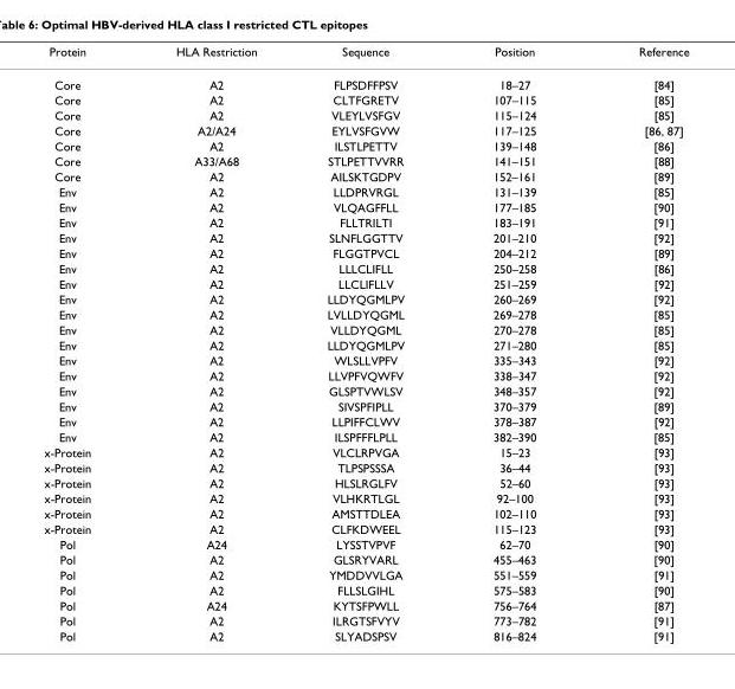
<table><thead><tr><td>Protein</td><td>HLA Restriction</td><td>Sequence</td><td>Position</td><td>Reference</td></tr></thead><tbody><tr><td>Core</td><td>A2</td><td>FLPSDFFPSV</td><td>18–27</td><td>[84]</td></tr><tr><td>Core</td><td>A2</td><td>CLTFGRETV</td><td>107–115</td><td>[85]</td></tr><tr><td>Core</td><td>A2</td><td>VLEYLVSFGV</td><td>115–124</td><td>[85]</td></tr><tr><td>Core</td><td>A2/A24</td><td>EYLVSFGVW</td><td>117–125</td><td>[86, 87]</td></tr><tr><td>Core</td><td>A2</td><td>ILSTLPETTV</td><td>139–148</td><td>[86]</td></tr><tr><td>Core</td><td>A33/A68</td><td>STLPETTVVRR</td><td>141–151</td><td>[88]</td></tr><tr><td>Core</td><td>A2</td><td>AILSKTGDPV</td><td>152–161</td><td>[89]</td></tr><tr><td>Env</td><td>A2</td><td>LLDPRVRGL</td><td>131–139</td><td>[85]</td></tr><tr><td>Env</td><td>A2</td><td>VLQAGFFLL</td><td>177–185</td><td>[90]</td></tr><tr><td>Env</td><td>A2</td><td>FLLTRILTI</td><td>183–191</td><td>[91]</td></tr><tr><td>Env</td><td>A2</td><td>SLNFLGGTTV</td><td>201–210</td><td>[92]</td></tr><tr><td>Env</td><td>A2</td><td>FLGGTPVCL</td><td>204–212</td><td>[89]</td></tr><tr><td>Env</td><td>A2</td><td>LLLCLIFLL</td><td>250–258</td><td>[86]</td></tr><tr><td>Env</td><td>A2</td><td>LLCLIFLLV</td><td>251–259</td><td>[92]</td></tr><tr><td>Env</td><td>A2</td><td>LLDYQGMLPV</td><td>260–269</td><td>[92]</td></tr><tr><td>Env</td><td>A2</td><td>LVLLDYQGML</td><td>269–278</td><td>[85]</td></tr><tr><td>Env</td><td>A2</td><td>VLLDYQGML</td><td>270–278</td><td>[85]</td></tr><tr><td>Env</td><td>A2</td><td>LLDYQGMLPV</td><td>271–280</td><td>[85]</td></tr><tr><td>Env</td><td>A2</td><td>WLSLLVPFV</td><td>335–343</td><td>[92]</td></tr><tr><td>Env</td><td>A2</td><td>LLVPFVQWFV</td><td>338–347</td><td>[92]</td></tr><tr><td>Env</td><td>A2</td><td>GLSPTVWLSV</td><td>348–357</td><td>[92]</td></tr><tr><td>Env</td><td>A2</td><td>SIVSPFIPLL</td><td>370–379</td><td>[89]</td></tr><tr><td>Env</td><td>A2</td><td>LLPIFFCLWV</td><td>378–387</td><td>[92]</td></tr><tr><td>Env</td><td>A2</td><td>ILSPFFFLPLL</td><td>382–390</td><td>[85]</td></tr><tr><td>x-Protein</td><td>A2</td><td>VLCLRPVGA</td><td>15–23</td><td>[93]</td></tr><tr><td>x-Protein</td><td>A2</td><td>TLPSPSSSA</td><td>36–44</td><td>[93]</td></tr><tr><td>x-Protein</td><td>A2</td><td>HLSLRGLFV</td><td>52–60</td><td>[93]</td></tr><tr><td>x-Protein</td><td>A2</td><td>VLHKRTLGL</td><td>92–100</td><td>[93]</td></tr><tr><td>x-Protein</td><td>A2</td><td>AMSTTDLEA</td><td>102–110</td><td>[93]</td></tr><tr><td>x-Protein</td><td>A2</td><td>CLFKDWEEL</td><td>115–123</td><td>[93]</td></tr><tr><td>Pol</td><td>A24</td><td>LYSSTVPVF</td><td>62–70</td><td>[90]</td></tr><tr><td>Pol</td><td>A2</td><td>GLSRYVARL</td><td>455–463</td><td>[90]</td></tr><tr><td>Pol</td><td>A2</td><td>YMDDVVLGA</td><td>551–559</td><td>[91]</td></tr><tr><td>Pol</td><td>A2</td><td>FLLSLGIHL</td><td>575–583</td><td>[90]</td></tr><tr><td>Pol</td><td>A24</td><td>KYTSFPWLL</td><td>756–764</td><td>[87]</td></tr><tr><td>Pol</td><td>A2</td><td>ILRGTSFVYV</td><td>773–782</td><td>[91]</td></tr><tr><td>Pol</td><td>A2</td><td>SLYADSPSV</td><td>816–824</td><td>[91]</td></tr></tbody></table>